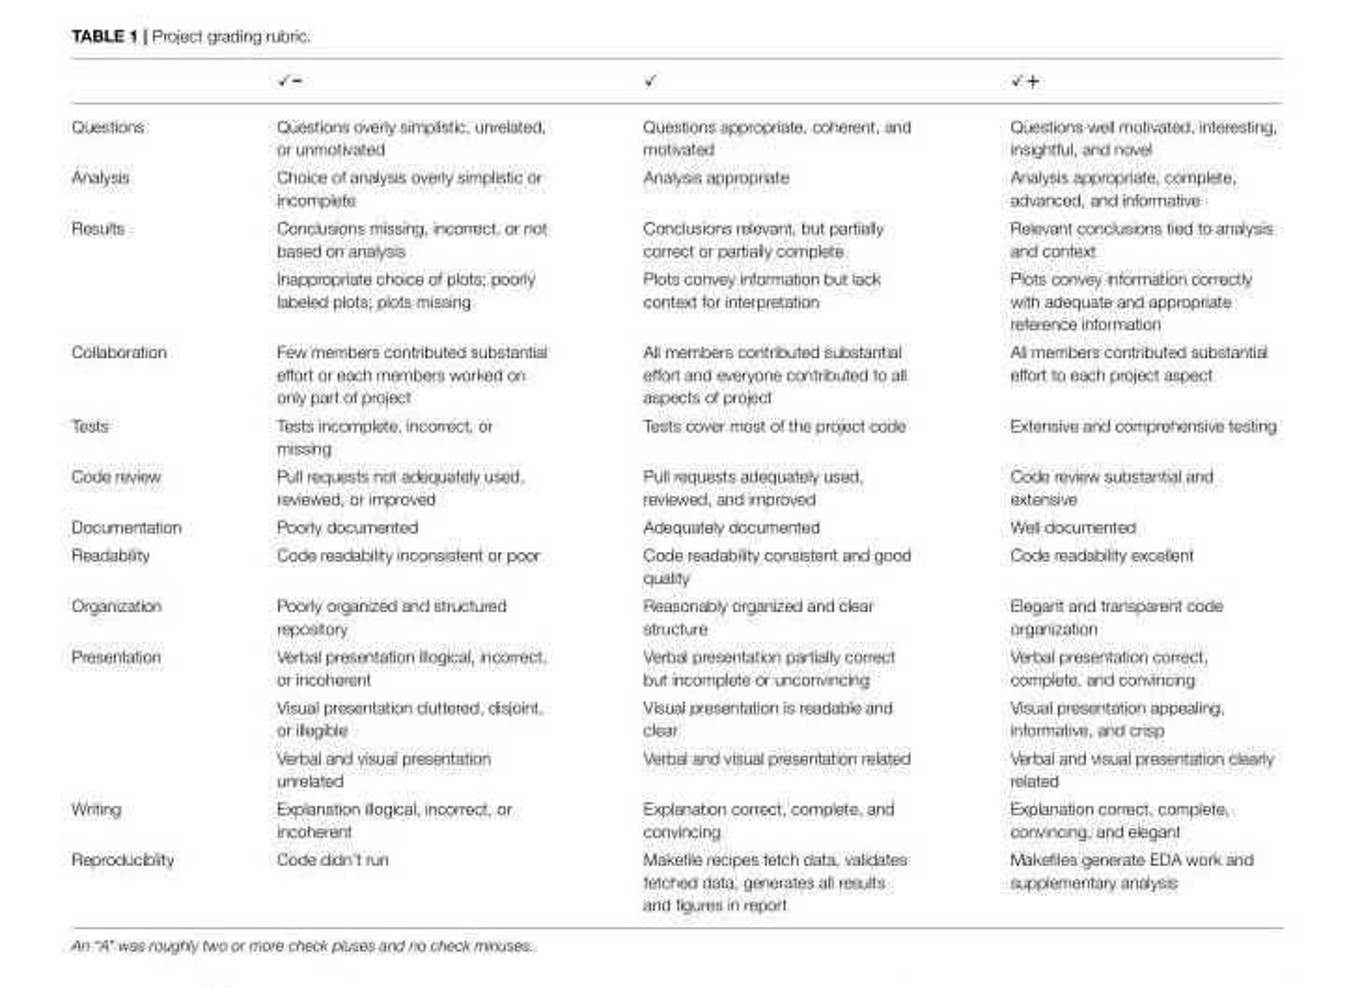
<table><thead><tr><td></td><td>✓–</td><td>✓</td><td>✓+</td></tr></thead><tbody><tr><td>Questions</td><td>Questions overly simplistic, unrelated, or unmotivated</td><td>Questions appropriate, coherent, and motivated</td><td>Questions well motivated, interesting, insightful, and novel</td></tr><tr><td>Analysis</td><td>Choice of analysis overly simplistic or incomplete</td><td>Analysis appropriate</td><td>Analysis appropriate, complete, advanced, and informative</td></tr><tr><td rowspan="2">Results</td><td>Conclusions missing, incorrect, or not based on analysis</td><td>Conclusions relevant, but partially correct or partially complete</td><td>Relevant conclusions tied to analysis and context</td></tr><tr><td>Inappropriate choice of plots; poorly labeled plots; plots missing</td><td>Plots convey information but lack context for interpretation</td><td>Plots convey information correctly with adequate and appropriate reference information</td></tr><tr><td>Collaboration</td><td>Few members contributed substantial effort or each members worked on only part of project</td><td>All members contributed substantial effort and everyone contributed to all aspects of project</td><td>All members contributed substantial effort to each project aspect</td></tr><tr><td>Tests</td><td>Tests incomplete, incorrect, or missing</td><td>Tests cover most of the project code</td><td>Extensive and comprehensive testing</td></tr><tr><td>Code review</td><td>Pull requests not adequately used, reviewed, or improved</td><td>Pull requests adequately used, reviewed, and improved</td><td>Code review substantial and extensive</td></tr><tr><td>Documentation</td><td>Poorly documented</td><td>Adequately documented</td><td>Well documented</td></tr><tr><td>Readability</td><td>Code readability inconsistent or poor</td><td>Code readability consistent and good quality</td><td>Code readability excellent</td></tr><tr><td>Organization</td><td>Poorly organized and structured repository</td><td>Reasonably organized and clear structure</td><td>Elegant and transparent code organization</td></tr><tr><td rowspan="3">Presentation</td><td>Verbal presentation illogical, incorrect, or incoherent</td><td>Verbal presentation partially correct but incomplete or unconvincing</td><td>Verbal presentation correct, complete, and convincing</td></tr><tr><td>Visual presentation cluttered, disjoint, or illegible</td><td>Visual presentation is readable and clear</td><td>Visual presentation appealing, informative, and crisp</td></tr><tr><td>Verbal and visual presentation unrelated</td><td>Verbal and visual presentation related</td><td>Verbal and visual presentation clearly related</td></tr><tr><td>Writing</td><td>Explanation illogical, incorrect, or incoherent</td><td>Explanation correct, complete, and convincing</td><td>Explanation correct, complete, convincing, and elegant</td></tr><tr><td>Reproduciblity</td><td>Code didn’t run</td><td>Makefile recipes fetch data, validates fetched data, generates all results and figures in report</td><td>Makefiles generate EDA work and supplementary analysis</td></tr></tbody></table>